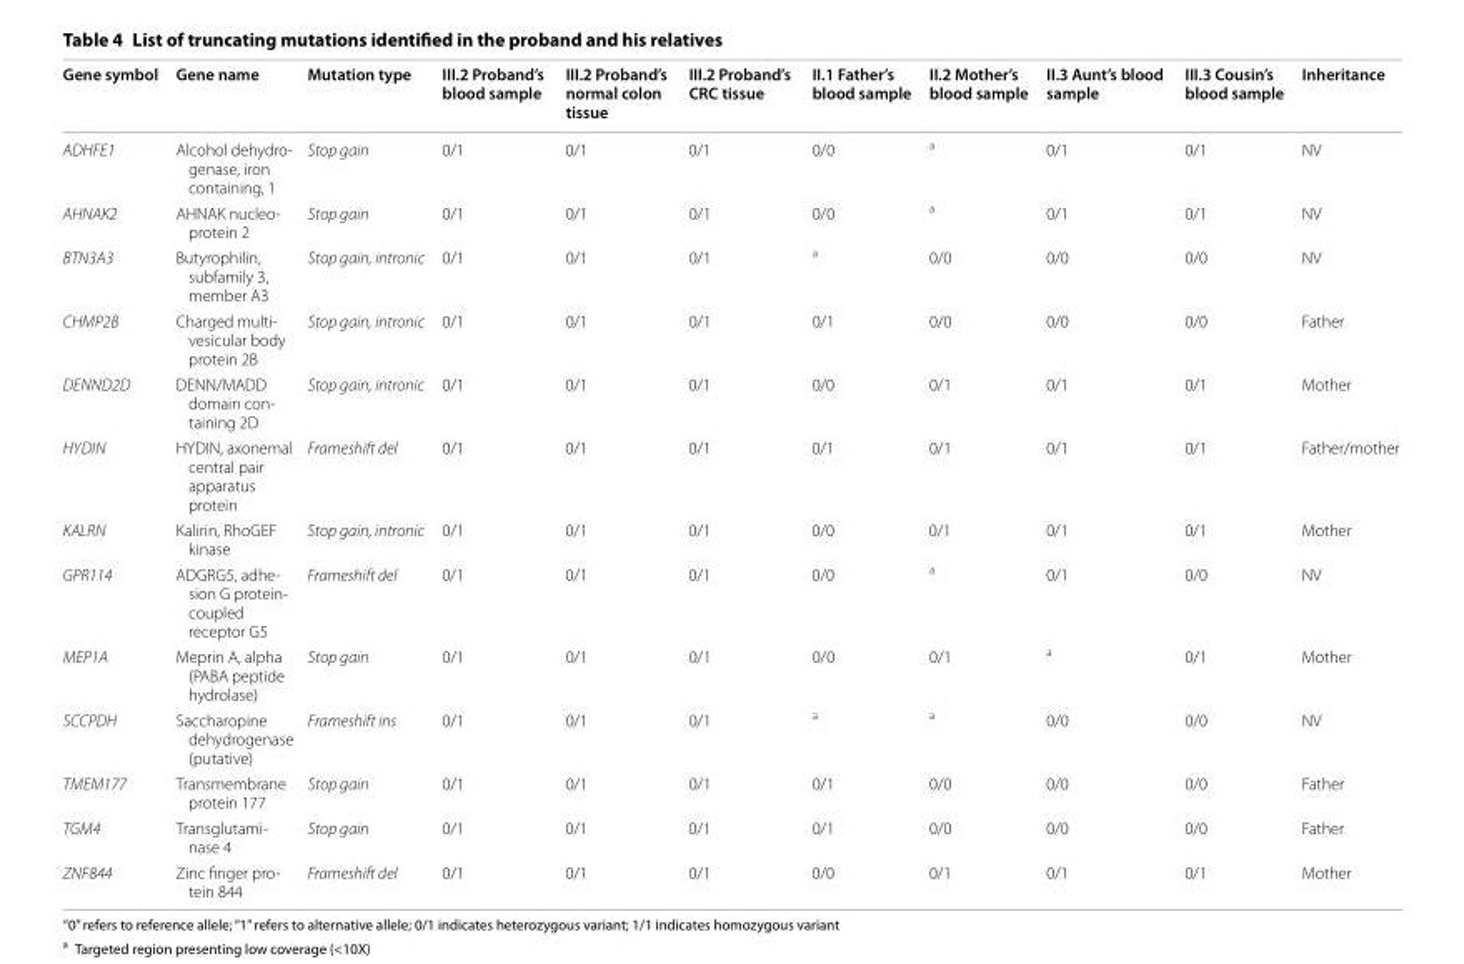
<table><thead><tr><td>Gene symbol</td><td>Gene name</td><td>Mutation type</td><td>III.2 Proband’s blood sample</td><td>III.2 Proband’s normal colon tissue</td><td>III.2 Proband’s CRC tissue</td><td>II.1 Father’s blood sample</td><td>II.2 Mother’s blood sample</td><td>II.3 Aunt’s blood sample</td><td>III.3 Cousin’s blood sample</td><td>Inheritance</td></tr></thead><tbody><tr><td>ADHFE1</td><td>Alcohol dehydro- genase, iron containing, 1</td><td>Stop gain</td><td>0/1</td><td>0/1</td><td>0/1</td><td>0/0</td><td><sup>a</sup></td><td>0/1</td><td>0/1</td><td>NV</td></tr><tr><td>AHNAK2</td><td>AHNAK nucleo- protein 2</td><td>Stop gain</td><td>0/1</td><td>0/1</td><td>0/1</td><td>0/0</td><td><sup>a</sup></td><td>0/1</td><td>0/1</td><td>NV</td></tr><tr><td>BTN3A3</td><td>Butyrophilin, subfamily 3, member A3</td><td>Stop gain, intronic</td><td>0/1</td><td>0/1</td><td>0/1</td><td><sup>a</sup></td><td>0/0</td><td>0/0</td><td>0/0</td><td>NV</td></tr><tr><td>CHMP2B</td><td>Charged multi- vesicular body protein 2B</td><td>Stop gain, intronic</td><td>0/1</td><td>0/1</td><td>0/1</td><td>0/1</td><td>0/0</td><td>0/0</td><td>0/0</td><td>Father</td></tr><tr><td>DENND2D</td><td>DENN/MADD domain con- taining 2D</td><td>Stop gain, intronic</td><td>0/1</td><td>0/1</td><td>0/1</td><td>0/0</td><td>0/1</td><td>0/1</td><td>0/1</td><td>Mother</td></tr><tr><td>HYDIN</td><td>HYDIN, axonemal central pair apparatus protein</td><td>Frameshift del</td><td>0/1</td><td>0/1</td><td>0/1</td><td>0/1</td><td>0/1</td><td>0/1</td><td>0/1</td><td>Father/mother</td></tr><tr><td>KALRN</td><td>Kalirin, RhoGEF kinase</td><td>Stop gain, intronic</td><td>0/1</td><td>0/1</td><td>0/1</td><td>0/0</td><td>0/1</td><td>0/1</td><td>0/1</td><td>Mother</td></tr><tr><td>GPR114</td><td>ADGRG5, adhe- sion G protein- coupled receptor G5</td><td>Frameshift del</td><td>0/1</td><td>0/1</td><td>0/1</td><td>0/0</td><td><sup>a</sup></td><td>0/1</td><td>0/0</td><td>NV</td></tr><tr><td>MEP1A</td><td>Meprin A, alpha (PABA peptide hydrolase)</td><td>Stop gain</td><td>0/1</td><td>0/1</td><td>0/1</td><td>0/0</td><td>0/1</td><td><sup>a</sup></td><td>0/1</td><td>Mother</td></tr><tr><td>SCCPDH</td><td>Saccharopine dehydrogenase (putative)</td><td>Frameshift ins</td><td>0/1</td><td>0/1</td><td>0/1</td><td><sup>a</sup></td><td><sup>a</sup></td><td>0/0</td><td>0/0</td><td>NV</td></tr><tr><td>TMEM177</td><td>Transmembrane protein 177</td><td>Stop gain</td><td>0/1</td><td>0/1</td><td>0/1</td><td>0/1</td><td>0/0</td><td>0/0</td><td>0/0</td><td>Father</td></tr><tr><td>TGM4</td><td>Transglutami- nase 4</td><td>Stop gain</td><td>0/1</td><td>0/1</td><td>0/1</td><td>0/1</td><td>0/0</td><td>0/0</td><td>0/0</td><td>Father</td></tr><tr><td>ZNF844</td><td>Zinc finger pro- tein 844</td><td>Frameshift del</td><td>0/1</td><td>0/1</td><td>0/1</td><td>0/0</td><td>0/1</td><td>0/1</td><td>0/1</td><td>Mother</td></tr></tbody></table>